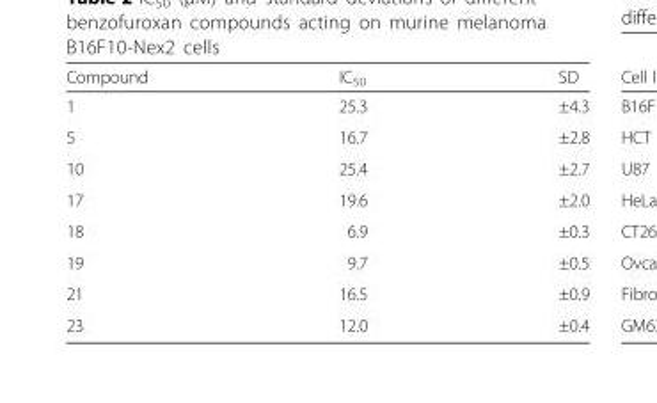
<table><thead><tr><td>Compound</td><td>IC<sub>50</sub></td><td>SD</td></tr></thead><tbody><tr><td>1</td><td>25.3</td><td>±4.3</td></tr><tr><td>5</td><td>16.7</td><td>±2.8</td></tr><tr><td>10</td><td>25.4</td><td>±2.7</td></tr><tr><td>17</td><td>19.6</td><td>±2.0</td></tr><tr><td>18</td><td>6.9</td><td>±0.3</td></tr><tr><td>19</td><td>9.7</td><td>±0.5</td></tr><tr><td>21</td><td>16.5</td><td>±0.9</td></tr><tr><td>23</td><td>12.0</td><td>±0.4</td></tr></tbody></table>